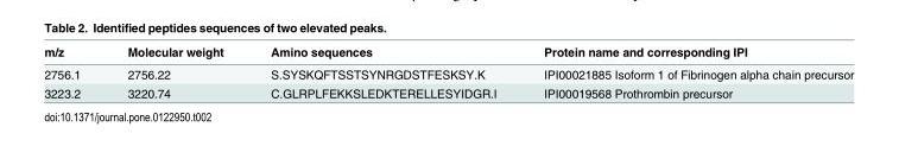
<table><thead><tr><td>m/z</td><td>Molecular weight</td><td>Amino sequences</td><td>Protein name and corresponding IPI</td></tr></thead><tbody><tr><td>2756.1</td><td>2756.22</td><td>S.SYSKQFTSSTSYNRGDSTFESKSY.K</td><td>IPI00021885 Isoform 1 of Fibrinogen alpha chain precursor</td></tr><tr><td>3223.2</td><td>3220.74</td><td>C.GLRPLFEKKSLEDKTERELLESYIDGR.I</td><td>IPI00019568 Prothrombin precursor</td></tr></tbody></table>